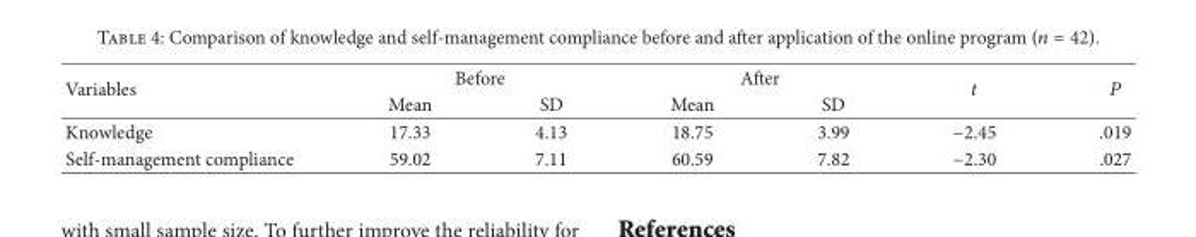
<table><thead><tr><td rowspan="2">Variables</td><td colspan="2">Before</td><td colspan="2">Aer</td><td rowspan="2">𝑡𝑡</td><td rowspan="2">𝑃𝑃</td></tr><tr><td>Mean</td><td>SD</td><td>Mean</td><td>SD</td></tr></thead><tbody><tr><td>Knowledge</td><td>17.33</td><td>4.13</td><td>18.75</td><td>3.99</td><td>−2.45</td><td>.019</td></tr><tr><td>Self-management compliance</td><td>59.02</td><td>7.11</td><td>60.59</td><td>7.82</td><td>−2.30</td><td>.027</td></tr></tbody></table>